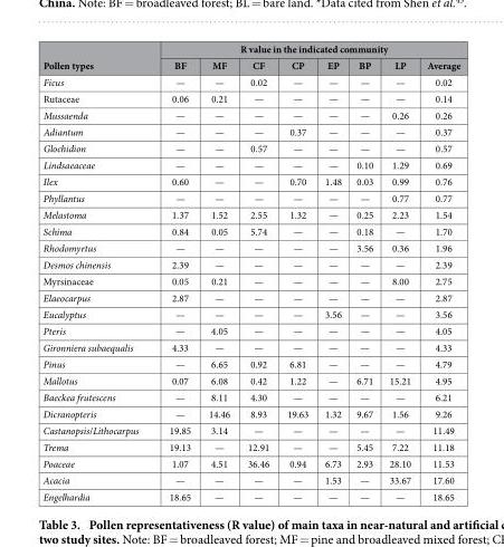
<table><thead><tr><td rowspan="2">Pollen types</td><td colspan="8">R value in the indicated community</td></tr><tr><td>BF</td><td>MF</td><td>CF</td><td>CP</td><td>EP</td><td>BP</td><td>LP</td><td>Average</td></tr></thead><tbody><tr><td>Ficus</td><td>—</td><td>—</td><td>0.02</td><td>—</td><td>—</td><td>—</td><td>—</td><td>0.02</td></tr><tr><td>Rutaceae</td><td>0.06</td><td>0.21</td><td>—</td><td>—</td><td>—</td><td>—</td><td>—</td><td>0.14</td></tr><tr><td>Mussaenda</td><td>—</td><td>—</td><td>—</td><td>—</td><td>—</td><td>—</td><td>0.26</td><td>0.26</td></tr><tr><td>Adiantum</td><td>—</td><td>—</td><td>—</td><td>0.37</td><td>—</td><td>—</td><td>—</td><td>0.37</td></tr><tr><td>Glochidion</td><td>—</td><td>—</td><td>0.57</td><td>—</td><td>—</td><td>—</td><td>—</td><td>0.57</td></tr><tr><td>Lindsaeaceae</td><td>—</td><td>—</td><td>—</td><td>—</td><td>—</td><td>0.10</td><td>1.29</td><td>0.69</td></tr><tr><td>Ilex</td><td>0.60</td><td>—</td><td>—</td><td>0.70</td><td>1.48</td><td>0.03</td><td>0.99</td><td>0.76</td></tr><tr><td>Phyllantus</td><td>—</td><td>—</td><td>—</td><td>—</td><td>—</td><td>—</td><td>0.77</td><td>0.77</td></tr><tr><td>Melastoma</td><td>1.37</td><td>1.52</td><td>2.55</td><td>1.32</td><td>—</td><td>0.25</td><td>2.23</td><td>1.54</td></tr><tr><td>Schima</td><td>0.84</td><td>0.05</td><td>5.74</td><td>—</td><td>—</td><td>0.18</td><td>—</td><td>1.70</td></tr><tr><td>Rhodomyrtus</td><td>—</td><td>—</td><td>—</td><td>—</td><td>—</td><td>3.56</td><td>0.36</td><td>1.96</td></tr><tr><td>Desmos chinensis</td><td>2.39</td><td>—</td><td>—</td><td>—</td><td>—</td><td>—</td><td>—</td><td>2.39</td></tr><tr><td>Myrsinaceae</td><td>0.05</td><td>0.21</td><td>—</td><td>—</td><td>—</td><td>—</td><td>8.00</td><td>2.75</td></tr><tr><td>Elaeocarpus</td><td>2.87</td><td>—</td><td>—</td><td>—</td><td>—</td><td>—</td><td>—</td><td>2.87</td></tr><tr><td>Eucalyptus</td><td>—</td><td>—</td><td>—</td><td>—</td><td>3.56</td><td>—</td><td>—</td><td>3.56</td></tr><tr><td>Pteris</td><td>—</td><td>4.05</td><td>—</td><td>—</td><td>—</td><td>—</td><td>—</td><td>4.05</td></tr><tr><td>Gironniera subaequalis</td><td>4.33</td><td>—</td><td>—</td><td>—</td><td>—</td><td>—</td><td>—</td><td>4.33</td></tr><tr><td>Pinus</td><td>—</td><td>6.65</td><td>0.92</td><td>6.81</td><td>—</td><td>—</td><td>—</td><td>4.79</td></tr><tr><td>Mallotus</td><td>0.07</td><td>6.08</td><td>0.42</td><td>1.22</td><td>—</td><td>6.71</td><td>15.21</td><td>4.95</td></tr><tr><td>Baeckea frutescens</td><td>—</td><td>8.11</td><td>4.30</td><td>—</td><td>—</td><td>—</td><td>—</td><td>6.21</td></tr><tr><td>Dicranopteris</td><td>—</td><td>14.46</td><td>8.93</td><td>19.63</td><td>1.32</td><td>9.67</td><td>1.56</td><td>9.26</td></tr><tr><td>Castanopsis/Lithocarpus</td><td>19.85</td><td>3.14</td><td>—</td><td>—</td><td>—</td><td>—</td><td>—</td><td>11.49</td></tr><tr><td>Trema</td><td>19.13</td><td>—</td><td>12.91</td><td>—</td><td>—</td><td>5.45</td><td>7.22</td><td>11.18</td></tr><tr><td>Poaceae</td><td>1.07</td><td>4.51</td><td>36.46</td><td>0.94</td><td>6.73</td><td>2.93</td><td>28.10</td><td>11.53</td></tr><tr><td>Acacia</td><td>—</td><td>—</td><td>—</td><td>—</td><td>1.53</td><td>—</td><td>33.67</td><td>17.60</td></tr><tr><td>Engelhardia</td><td>18.65</td><td>—</td><td>—</td><td>—</td><td>—</td><td>—</td><td>—</td><td>18.65</td></tr></tbody></table>